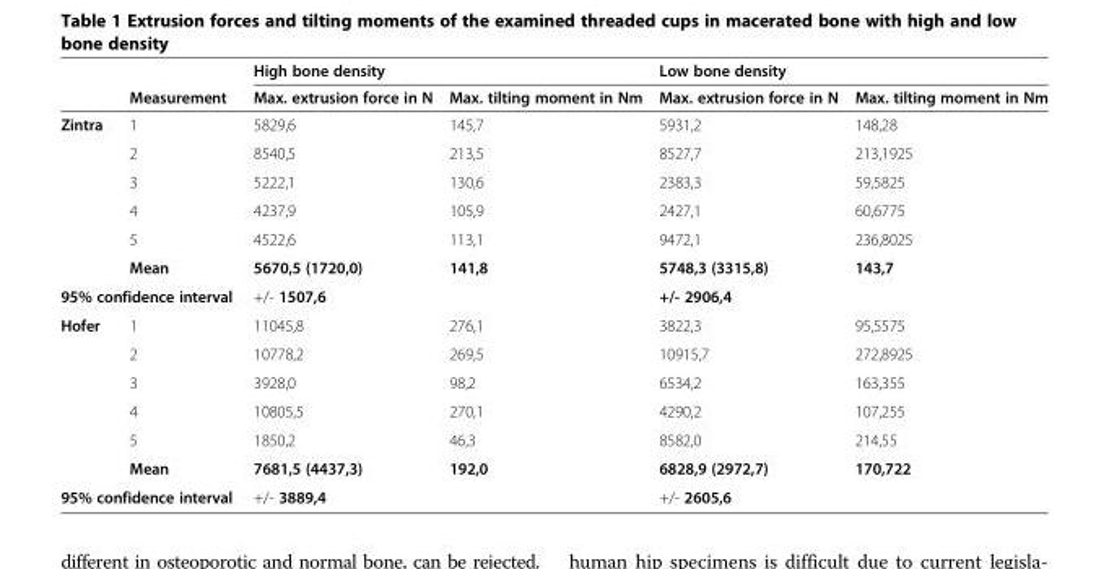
<table><thead><tr><td rowspan="2"></td><td rowspan="2">Measurement</td><td colspan="2">High bone density</td><td colspan="2">Low bone density</td></tr><tr><td>Max. extrusion force in N</td><td>Max. tilting moment in Nm</td><td>Max. extrusion force in N</td><td>Max. tilting moment in Nm</td></tr></thead><tbody><tr><td rowspan="6">Zintra</td><td>1</td><td>5829,6</td><td>145,7</td><td>5931,2</td><td>148,28</td></tr><tr><td>2</td><td>8540,5</td><td>213,5</td><td>8527,7</td><td>213,1925</td></tr><tr><td>3</td><td>5222,1</td><td>130,6</td><td>2383,3</td><td>59,5825</td></tr><tr><td>4</td><td>4237,9</td><td>105,9</td><td>2427,1</td><td>60,6775</td></tr><tr><td>5</td><td>4522,6</td><td>113,1</td><td>9472,1</td><td>236,8025</td></tr><tr><td>Mean</td><td>5670,5 (1720,0)</td><td>141,8</td><td>5748,3 (3315,8)</td><td>143,7</td></tr><tr><td colspan="2">95% confidence interval</td><td>+/- 1507,6</td><td></td><td>+/- 2906,4</td><td></td></tr><tr><td rowspan="6">Hofer</td><td>1</td><td>11045,8</td><td>276,1</td><td>3822,3</td><td>95,5575</td></tr><tr><td>2</td><td>10778,2</td><td>269,5</td><td>10915,7</td><td>272,8925</td></tr><tr><td>3</td><td>3928,0</td><td>98,2</td><td>6534,2</td><td>163,355</td></tr><tr><td>4</td><td>10805,5</td><td>270,1</td><td>4290,2</td><td>107,255</td></tr><tr><td>5</td><td>1850,2</td><td>46,3</td><td>8582,0</td><td>214,55</td></tr><tr><td>Mean</td><td>7681,5 (4437,3)</td><td>192,0</td><td>6828,9 (2972,7)</td><td>170,722</td></tr><tr><td colspan="2">95% confidence interval</td><td>+/- 3889,4</td><td></td><td>+/- 2605,6</td><td></td></tr></tbody></table>